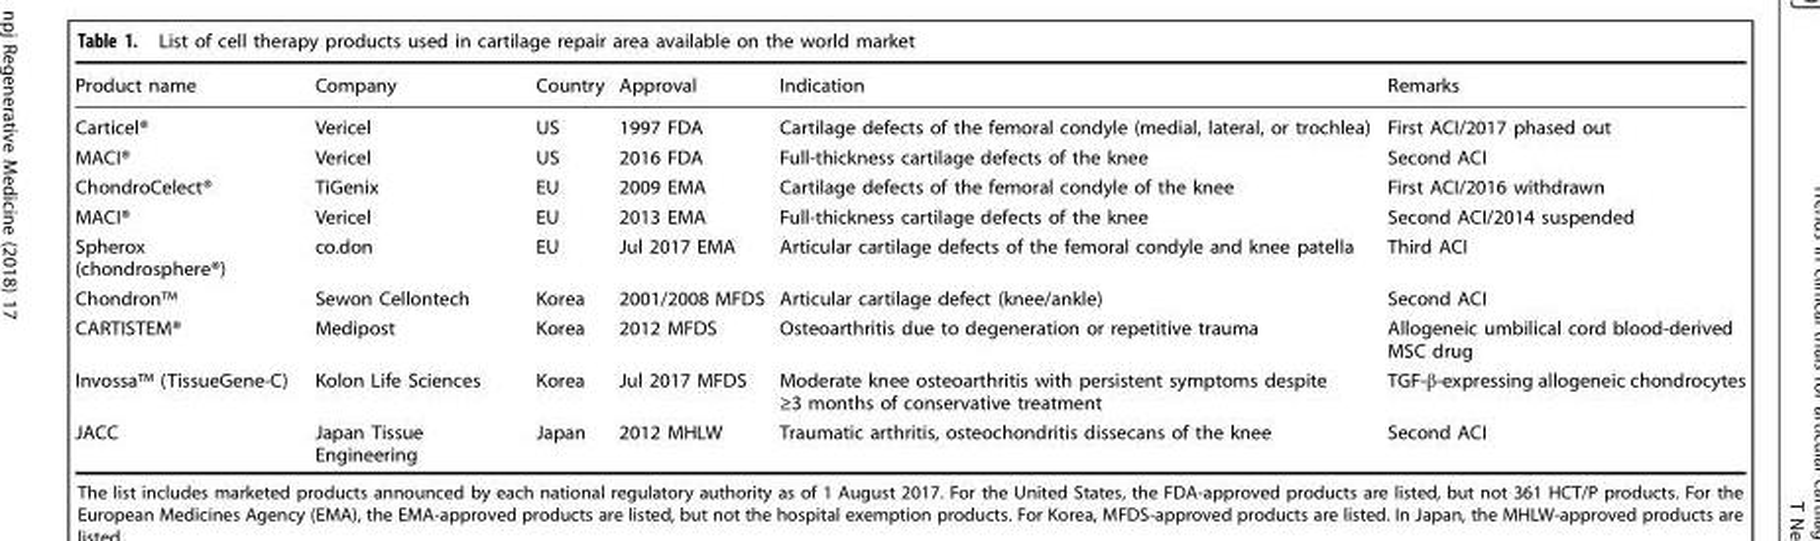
<table><thead><tr><td>Product name</td><td>Company</td><td>Country</td><td>Approval</td><td>Indication</td><td>Remarks</td></tr></thead><tbody><tr><td>Carticel®</td><td>Vericel</td><td>US</td><td>1997 FDA</td><td>Cartilage defects of the femoral condyle (medial, lateral, or trochlea)</td><td>First ACI/2017 phased out</td></tr><tr><td>MACI®</td><td>Vericel</td><td>US</td><td>2016 FDA</td><td>Full-thickness cartilage defects of the knee</td><td>Second ACI</td></tr><tr><td>ChondroCelect®</td><td>TiGenix</td><td>EU</td><td>2009 EMA</td><td>Cartilage defects of the femoral condyle of the knee</td><td>First ACI/2016 withdrawn</td></tr><tr><td>MACI®</td><td>Vericel</td><td>EU</td><td>2013 EMA</td><td>Full-thickness cartilage defects of the knee</td><td>Second ACI/2014 suspended</td></tr><tr><td>Spherox (chondrosphere®)</td><td>co.don</td><td>EU</td><td>Jul 2017 EMA</td><td>Articular cartilage defects of the femoral condyle and knee patella</td><td>Third ACI</td></tr><tr><td>Chondron™</td><td>Sewon Cellontech</td><td>Korea</td><td>2001/2008 MFDS</td><td>Articular cartilage defect (knee/ankle)</td><td>Second ACI</td></tr><tr><td>CARTISTEM®</td><td>Medipost</td><td>Korea</td><td>2012 MFDS</td><td>Osteoarthritis due to degeneration or repetitive trauma</td><td>Allogeneic umbilical cord blood-derived MSC drug</td></tr><tr><td>Invossa™ (TissueGene-C)</td><td>Kolon Life Sciences</td><td>Korea</td><td>Jul 2017 MFDS</td><td>Moderate knee osteoarthritis with persistent symptoms despite ≥3 months of conservative treatment</td><td>TGF-β-expressing allogeneic chondrocytes</td></tr><tr><td>JACC</td><td>Japan Tissue Engineering</td><td>Japan</td><td>2012 MHLW</td><td>Traumatic arthritis, osteochondritis dissecans of the knee</td><td>Second ACI</td></tr></tbody></table>